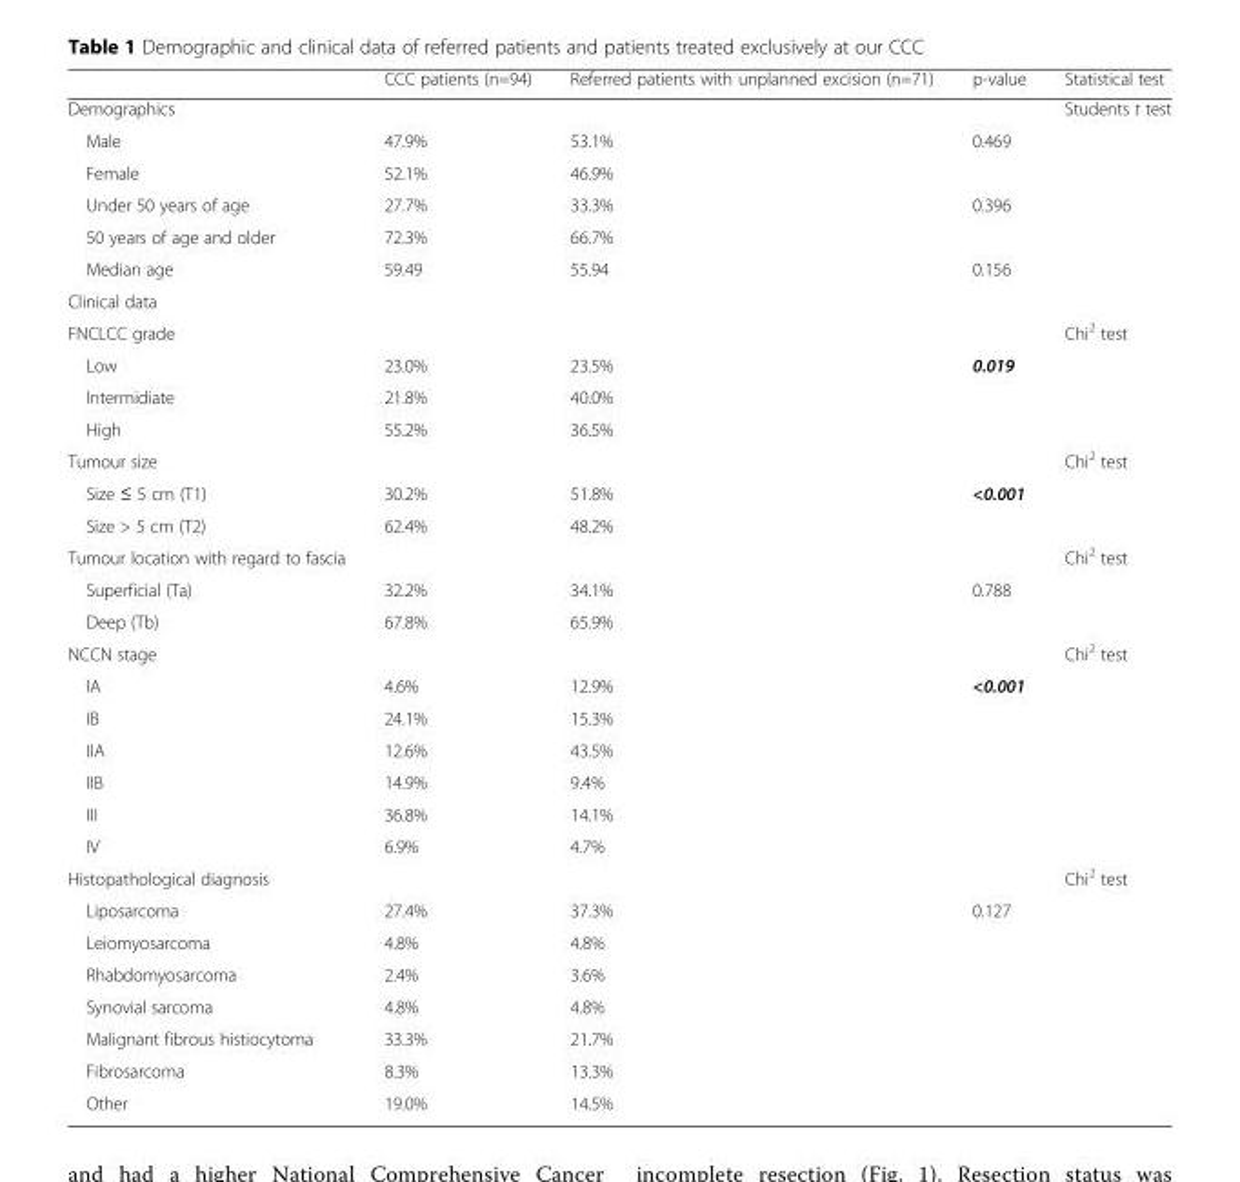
<table><thead><tr><td></td><td>CCC patients (n=94)</td><td>Referred patients with unplanned excision (n=71)</td><td>p-value</td><td>Statistical test</td></tr></thead><tbody><tr><td colspan="4">Demographics</td><td rowspan="6">Students t test</td></tr><tr><td>Male</td><td>47.9%</td><td>53.1%</td><td rowspan="2">0.469</td></tr><tr><td>Female</td><td>52.1%</td><td>46.9%</td></tr><tr><td>Under 50 years of age</td><td>27.7%</td><td>33.3%</td><td rowspan="2">0.396</td></tr><tr><td>50 years of age and older</td><td>72.3%</td><td>66.7%</td></tr><tr><td>Median age</td><td>59.49</td><td>55.94</td><td>0.156</td></tr><tr><td colspan="5">Clinical data</td></tr><tr><td colspan="4">FNCLCC grade</td><td rowspan="4">Chi<sup>2</sup> test</td></tr><tr><td>Low</td><td>23.0%</td><td>23.5%</td><td rowspan="3">0.019</td></tr><tr><td>Intermidiate</td><td>21.8%</td><td>40.0%</td></tr><tr><td>High</td><td>55.2%</td><td>36.5%</td></tr><tr><td colspan="4">Tumour size</td><td rowspan="3">Chi<sup>2</sup> test</td></tr><tr><td>Size ≤ 5 cm (T1)</td><td>30.2%</td><td>51.8%</td><td rowspan="2">&lt;0.001</td></tr><tr><td>Size &gt; 5 cm (T2)</td><td>62.4%</td><td>48.2%</td></tr><tr><td colspan="4">Tumour location with regard to fascia</td><td rowspan="3">Chi<sup>2</sup> test</td></tr><tr><td>Superficial (Ta)</td><td>32.2%</td><td>34.1%</td><td rowspan="2">0.788</td></tr><tr><td>Deep (Tb)</td><td>67.8%</td><td>65.9%</td></tr><tr><td colspan="4">NCCN stage</td><td rowspan="7">Chi<sup>2</sup> test</td></tr><tr><td>IA</td><td>4.6%</td><td>12.9%</td><td rowspan="6">&lt;0.001</td></tr><tr><td>IB</td><td>24.1%</td><td>15.3%</td></tr><tr><td>IIA</td><td>12.6%</td><td>43.5%</td></tr><tr><td>IIB</td><td>14.9%</td><td>9.4%</td></tr><tr><td>III</td><td>36.8%</td><td>14.1%</td></tr><tr><td>IV</td><td>6.9%</td><td>4.7%</td></tr><tr><td colspan="4">Histopathological diagnosis</td><td rowspan="8">Chi<sup>2</sup> test</td></tr><tr><td>Liposarcoma</td><td>27.4%</td><td>37.3%</td><td rowspan="7">0.127</td></tr><tr><td>Leiomyosarcoma</td><td>4.8%</td><td>4.8%</td></tr><tr><td>Rhabdomyosarcoma</td><td>2.4%</td><td>3.6%</td></tr><tr><td>Synovial sarcoma</td><td>4.8%</td><td>4.8%</td></tr><tr><td>Malignant fibrous histiocytoma</td><td>33.3%</td><td>21.7%</td></tr><tr><td>Fibrosarcoma</td><td>8.3%</td><td>13.3%</td></tr><tr><td>Other</td><td>19.0%</td><td>14.5%</td></tr></tbody></table>